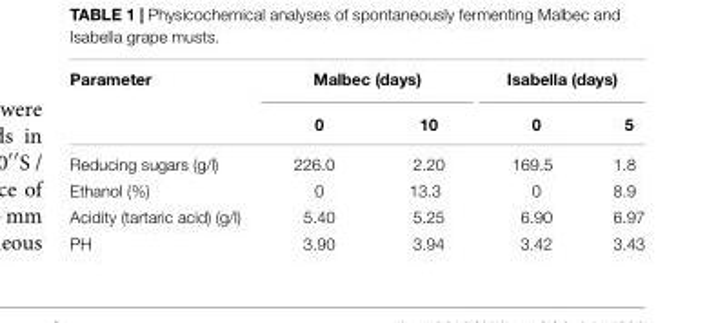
<table><thead><tr><td rowspan="2">Parameter</td><td colspan="2">Malbec (days)</td><td colspan="2">Isabella (days)</td></tr><tr><td>0</td><td>10</td><td>0</td><td>5</td></tr></thead><tbody><tr><td>Reducing sugars (g/l)</td><td>226.0</td><td>2.20</td><td>169.5</td><td>1.8</td></tr><tr><td>Ethanol (%)</td><td>0</td><td>13.3</td><td>0</td><td>8.9</td></tr><tr><td>Acidity (tartaric acid) (g/l)</td><td>5.40</td><td>5.25</td><td>6.90</td><td>6.97</td></tr><tr><td>PH</td><td>3.90</td><td>3.94</td><td>3.42</td><td>3.43</td></tr></tbody></table>